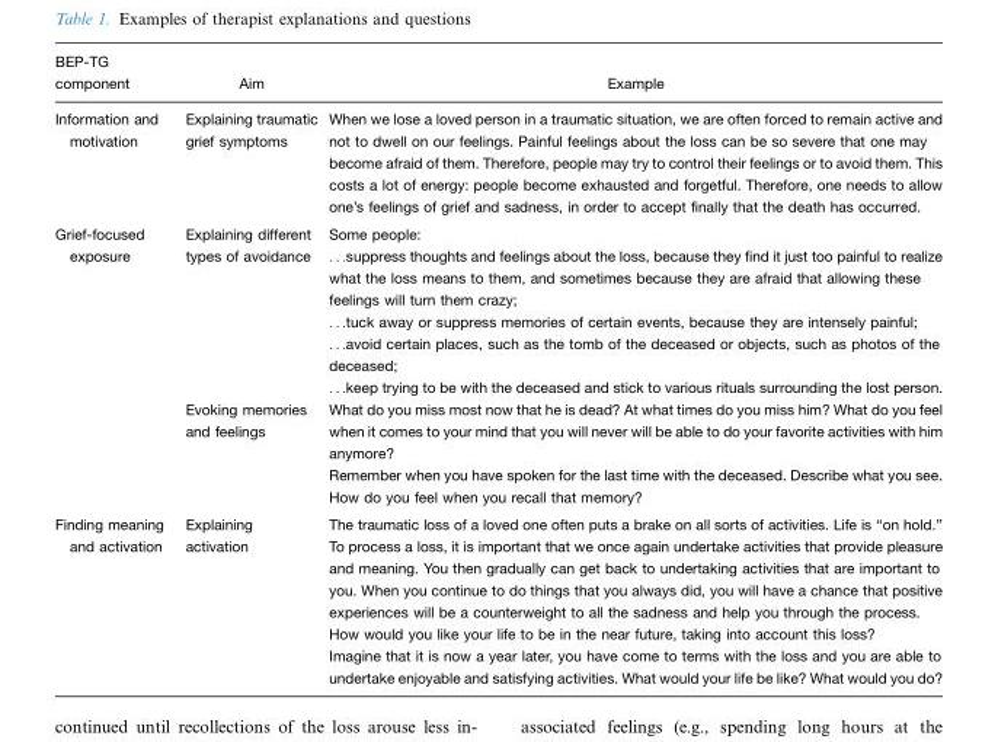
<table><thead><tr><td>BEP-TG component</td><td>Aim</td><td>Example</td></tr></thead><tbody><tr><td>Information and motivation</td><td>Explaining traumatic grief symptoms</td><td>When we lose a loved person in a traumatic situation, we are often forced to remain active and not to dwell on our feelings. Painful feelings about the loss can be so severe that one may become afraid of them. Therefore, people may try to control their feelings or to avoid them. This costs a lot of energy: people become exhausted and forgetful. Therefore, one needs to allow one’s feelings of grief and sadness, in order to accept finally that the death has occurred.</td></tr><tr><td rowspan="2">Grief-focused exposure</td><td>Explaining different types of avoidance</td><td>Some people: . . .suppress thoughts and feelings about the loss, because they find it just too painful to realize what the loss means to them, and sometimes because they are afraid that allowing these feelings will turn them crazy; . . .tuck away or suppress memories of certain events, because they are intensely painful; . . .avoid certain places, such as the tomb of the deceased or objects, such as photos of the deceased; . . .keep trying to be with the deceased and stick to various rituals surrounding the lost person.</td></tr><tr><td>Evoking memories and feelings</td><td>What do you miss most now that he is dead? At what times do you miss him? What do you feel when it comes to your mind that you will never will be able to do your favorite activities with him anymore? Remember when you have spoken for the last time with the deceased. Describe what you see. How do you feel when you recall that memory?</td></tr><tr><td>Finding meaning and activation</td><td>Explaining activation</td><td>The traumatic loss of a loved one often puts a brake on all sorts of activities. Life is ‘‘on hold.’’ To process a loss, it is important that we once again undertake activities that provide pleasure and meaning. You then gradually can get back to undertaking activities that are important to you. When you continue to do things that you always did, you will have a chance that positive experiences will be a counterweight to all the sadness and help you through the process. How would you like your life to be in the near future, taking into account this loss? Imagine that it is now a year later, you have come to terms with the loss and you are able to undertake enjoyable and satisfying activities. What would your life be like? What would you do?</td></tr></tbody></table>